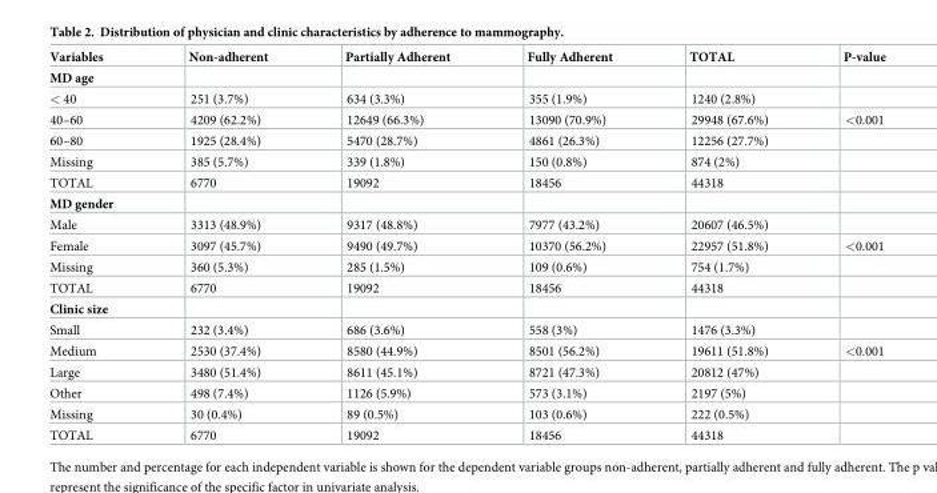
<table><thead><tr><td>Variables</td><td>Non-adherent</td><td>Partially Adherent</td><td>Fully Adherent</td><td>TOTAL</td><td>P-value</td></tr></thead><tbody><tr><td colspan="6">MD age</td></tr><tr><td>&lt; 40</td><td>251 (3.7%)</td><td>634 (3.3%)</td><td>355 (1.9%)</td><td>1240 (2.8%)</td><td></td></tr><tr><td>40–60</td><td>4209 (62.2%)</td><td>12649 (66.3%)</td><td>13090 (70.9%)</td><td>29948 (67.6%)</td><td>&lt;0.001</td></tr><tr><td>60–80</td><td>1925 (28.4%)</td><td>5470 (28.7%)</td><td>4861 (26.3%)</td><td>12256 (27.7%)</td><td></td></tr><tr><td>Missing</td><td>385 (5.7%)</td><td>339 (1.8%)</td><td>150 (0.8%)</td><td>874 (2%)</td><td></td></tr><tr><td>TOTAL</td><td>6770</td><td>19092</td><td>18456</td><td>44318</td><td></td></tr><tr><td colspan="6">MD gender</td></tr><tr><td>Male</td><td>3313 (48.9%)</td><td>9317 (48.8%)</td><td>7977 (43.2%)</td><td>20607 (46.5%)</td><td></td></tr><tr><td>Female</td><td>3097 (45.7%)</td><td>9490 (49.7%)</td><td>10370 (56.2%)</td><td>22957 (51.8%)</td><td>&lt;0.001</td></tr><tr><td>Missing</td><td>360 (5.3%)</td><td>285 (1.5%)</td><td>109 (0.6%)</td><td>754 (1.7%)</td><td></td></tr><tr><td>TOTAL</td><td>6770</td><td>19092</td><td>18456</td><td>44318</td><td></td></tr><tr><td colspan="6">Clinic size</td></tr><tr><td>Small</td><td>232 (3.4%)</td><td>686 (3.6%)</td><td>558 (3%)</td><td>1476 (3.3%)</td><td></td></tr><tr><td>Medium</td><td>2530 (37.4%)</td><td>8580 (44.9%)</td><td>8501 (56.2%)</td><td>19611 (51.8%)</td><td>&lt;0.001</td></tr><tr><td>Large</td><td>3480 (51.4%)</td><td>8611 (45.1%)</td><td>8721 (47.3%)</td><td>20812 (47%)</td><td></td></tr><tr><td>Other</td><td>498 (7.4%)</td><td>1126 (5.9%)</td><td>573 (3.1%)</td><td>2197 (5%)</td><td></td></tr><tr><td>Missing</td><td>30 (0.4%)</td><td>89 (0.5%)</td><td>103 (0.6%)</td><td>222 (0.5%)</td><td></td></tr><tr><td>TOTAL</td><td>6770</td><td>19092</td><td>18456</td><td>44318</td><td></td></tr></tbody></table>